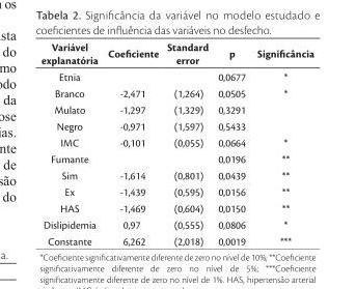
<table><thead><tr><td>Variável explanatória</td><td>Coeficiente</td><td>Standard error</td><td>p</td><td>Significância</td></tr></thead><tbody><tr><td>Etnia</td><td></td><td></td><td>0,0677</td><td>*</td></tr><tr><td>Branco</td><td>-2,471</td><td>(1,264)</td><td>0,0505</td><td>*</td></tr><tr><td>Mulato</td><td>-1,297</td><td>(1,329)</td><td>0,3291</td><td></td></tr><tr><td>Negro</td><td>-0,971</td><td>(1,597)</td><td>0,5433</td><td></td></tr><tr><td>IMC</td><td>-0,101</td><td>(0,055)</td><td>0,0664</td><td>*</td></tr><tr><td>Fumante</td><td></td><td></td><td>0,0196</td><td>**</td></tr><tr><td>Sim</td><td>-1,614</td><td>(0,801)</td><td>0,0439</td><td>**</td></tr><tr><td>Ex</td><td>-1,439</td><td>(0,595)</td><td>0,0156</td><td>**</td></tr><tr><td>HAS</td><td>-1,469</td><td>(0,604)</td><td>0,0150</td><td>**</td></tr><tr><td>Dislipidemia</td><td>0,97</td><td>(0,555)</td><td>0,0806</td><td>*</td></tr><tr><td>Constante</td><td>6,262</td><td>(2,018)</td><td>0,0019</td><td>***</td></tr></tbody></table>